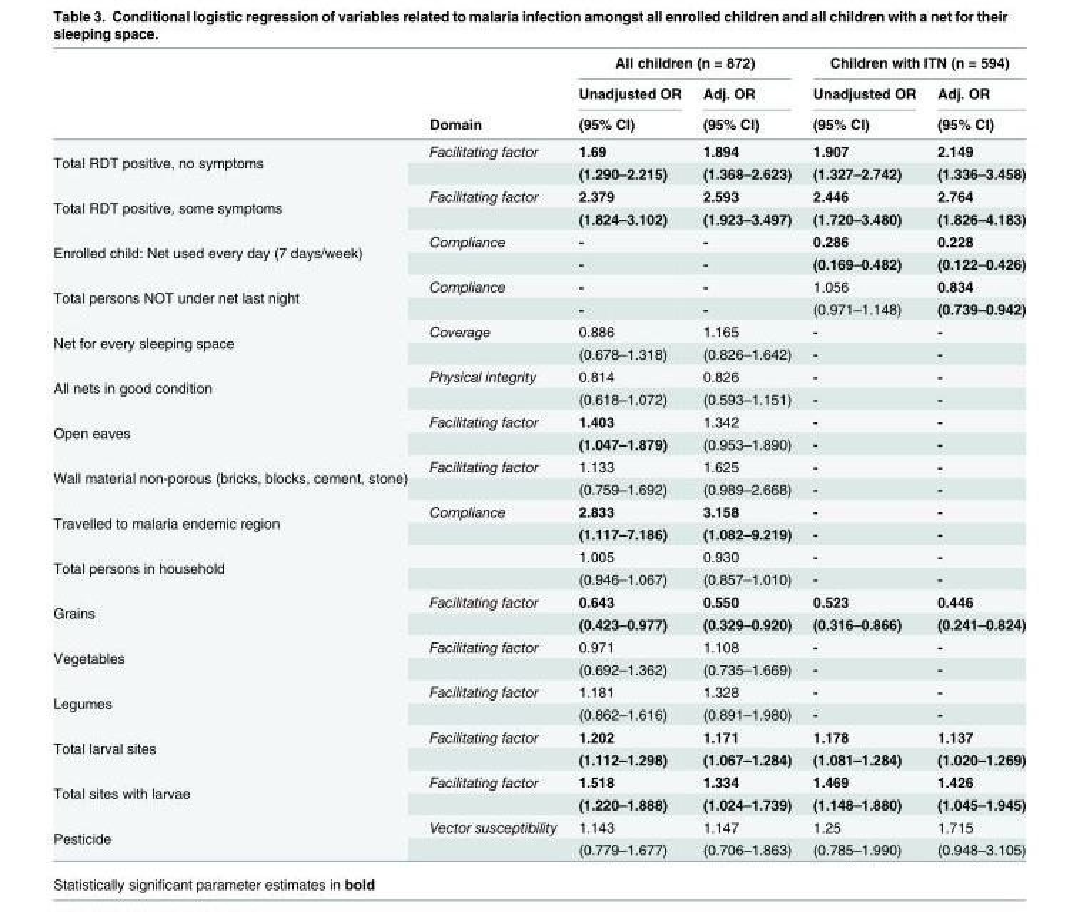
<table><thead><tr><td rowspan="3"></td><td rowspan="3">Domain</td><td colspan="2">All children (n = 872)</td><td colspan="2">Children with ITN (n = 594)</td></tr><tr><td rowspan="2">Unadjusted OR (95% CI)</td><td rowspan="2">Adj. OR (95% CI)</td><td rowspan="2">Unadjusted OR (95% CI)</td><td rowspan="2">Adj. OR (95% CI)</td></tr><tr></tr></thead><tbody><tr><td rowspan="2">Total RDT positive, no symptoms</td><td>Facilitating factor</td><td>1.69</td><td>1.894</td><td>1.907</td><td>2.149</td></tr><tr><td></td><td>(1.290–2.215)</td><td>(1.368–2.623)</td><td>(1.327–2.742)</td><td>(1.336–3.458)</td></tr><tr><td rowspan="2">Total RDT positive, some symptoms</td><td>Facilitating factor</td><td>2.379</td><td>2.593</td><td>2.446</td><td>2.764</td></tr><tr><td></td><td>(1.824–3.102)</td><td>(1.923–3.497)</td><td>(1.720–3.480)</td><td>(1.826–4.183)</td></tr><tr><td rowspan="2">Enrolled child: Net used every day (7 days/week)</td><td>Compliance</td><td>-</td><td>-</td><td>0.286</td><td>0.228</td></tr><tr><td></td><td>-</td><td>-</td><td>(0.169–0.482)</td><td>(0.122–0.426)</td></tr><tr><td rowspan="2">Total persons NOT under net last night</td><td>Compliance</td><td>-</td><td>-</td><td>1.056</td><td>0.834</td></tr><tr><td></td><td>-</td><td>-</td><td>(0.971–1.148)</td><td>(0.739–0.942)</td></tr><tr><td rowspan="2">Net for every sleeping space</td><td>Coverage</td><td>0.886</td><td>1.165</td><td>-</td><td>-</td></tr><tr><td></td><td>(0.678–1.318)</td><td>(0.826–1.642)</td><td>-</td><td>-</td></tr><tr><td rowspan="2">All nets in good condition</td><td>Physical integrity</td><td>0.814</td><td>0.826</td><td>-</td><td>-</td></tr><tr><td></td><td>(0.618–1.072)</td><td>(0.593–1.151)</td><td>-</td><td>-</td></tr><tr><td rowspan="2">Open eaves</td><td>Facilitating factor</td><td>1.403</td><td>1.342</td><td>-</td><td>-</td></tr><tr><td></td><td>(1.047–1.879)</td><td>(0.953–1.890)</td><td>-</td><td>-</td></tr><tr><td rowspan="2">Wall material non-porous (bricks, blocks, cement, stone)</td><td>Facilitating factor</td><td>1.133</td><td>1.625</td><td>-</td><td>-</td></tr><tr><td></td><td>(0.759–1.692)</td><td>(0.989–2.668)</td><td>-</td><td>-</td></tr><tr><td rowspan="2">Travelled to malaria endemic region</td><td>Compliance</td><td>2.833</td><td>3.158</td><td>-</td><td>-</td></tr><tr><td></td><td>(1.117–7.186)</td><td>(1.082–9.219)</td><td>-</td><td>-</td></tr><tr><td rowspan="2">Total persons in household</td><td></td><td>1.005</td><td>0.930</td><td>-</td><td>-</td></tr><tr><td></td><td>(0.946–1.067)</td><td>(0.857–1.010)</td><td>-</td><td>-</td></tr><tr><td rowspan="2">Grains</td><td>Facilitating factor</td><td>0.643</td><td>0.550</td><td>0.523</td><td>0.446</td></tr><tr><td></td><td>(0.423–0.977)</td><td>(0.329–0.920)</td><td>(0.316–0.866)</td><td>(0.241–0.824)</td></tr><tr><td rowspan="2">Vegetables</td><td>Facilitating factor</td><td>0.971</td><td>1.108</td><td>-</td><td>-</td></tr><tr><td></td><td>(0.692–1.362)</td><td>(0.735–1.669)</td><td>-</td><td>-</td></tr><tr><td rowspan="2">Legumes</td><td>Facilitating factor</td><td>1.181</td><td>1.328</td><td>-</td><td>-</td></tr><tr><td></td><td>(0.862–1.616)</td><td>(0.891–1.980)</td><td>-</td><td>-</td></tr><tr><td rowspan="2">Total larval sites</td><td>Facilitating factor</td><td>1.202</td><td>1.171</td><td>1.178</td><td>1.137</td></tr><tr><td></td><td>(1.112–1.298)</td><td>(1.067–1.284)</td><td>(1.081–1.284)</td><td>(1.020–1.269)</td></tr><tr><td rowspan="2">Total sites with larvae</td><td>Facilitating factor</td><td>1.518</td><td>1.334</td><td>1.469</td><td>1.426</td></tr><tr><td></td><td>(1.220–1.888)</td><td>(1.024–1.739)</td><td>(1.148–1.880)</td><td>(1.045–1.945)</td></tr><tr><td rowspan="2">Pesticide</td><td>Vector susceptibility</td><td>1.143</td><td>1.147</td><td>1.25</td><td>1.715</td></tr><tr><td></td><td>(0.779–1.677)</td><td>(0.706–1.863)</td><td>(0.785–1.990)</td><td>(0.948–3.105)</td></tr></tbody></table>